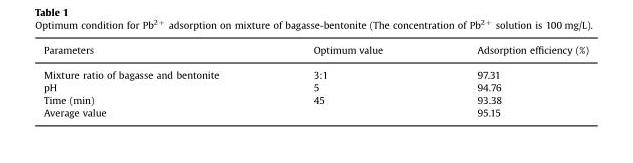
<table><thead><tr><td>Parameters</td><td>Optimum value</td><td>Adsorption efficiency (%)</td></tr></thead><tbody><tr><td>Mixture ratio of bagasse and bentonite</td><td>3:1</td><td>97.31</td></tr><tr><td>pH</td><td>5</td><td>94.76</td></tr><tr><td>Time (min)</td><td>45</td><td>93.38</td></tr><tr><td>Average value</td><td></td><td>95.15</td></tr></tbody></table>